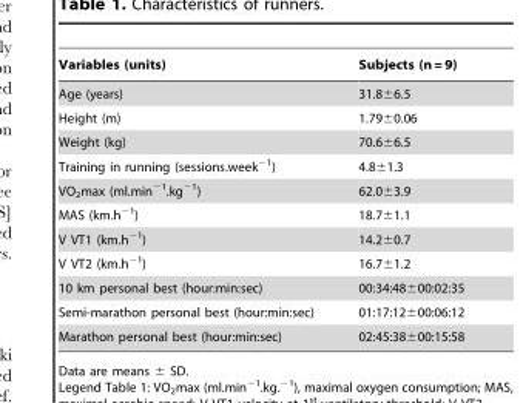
<table><thead><tr><td>Variables (units)</td><td>Subjects (n = 9)</td></tr></thead><tbody><tr><td>Age (years)</td><td>31.8±6.5</td></tr><tr><td>Height (m)</td><td>1.79±0.06</td></tr><tr><td>Weight (kg)</td><td>70.6±6.5</td></tr><tr><td>Training in running (sessions.week<sup>−1</sup>)</td><td>4.8±1.3</td></tr><tr><td>VO<sub>2</sub>max (ml.min<sup>−1</sup>.kg<sup>−1</sup>)</td><td>62.0±3.9</td></tr><tr><td>MAS (km.h<sup>−1</sup>)</td><td>18.7±1.1</td></tr><tr><td>V VT1 (km.h<sup>−1</sup>)</td><td>14.2±0.7</td></tr><tr><td>V VT2 (km.h<sup>−1</sup>)</td><td>16.7±1.2</td></tr><tr><td>10 km personal best (hour:min:sec)</td><td>00:34:48±00:02:35</td></tr><tr><td>Semi-marathon personal best (hour:min:sec)</td><td>01:17:12±00:06:12</td></tr><tr><td>Marathon personal best (hour:min:sec)</td><td>02:45:38±00:15:58</td></tr></tbody></table>